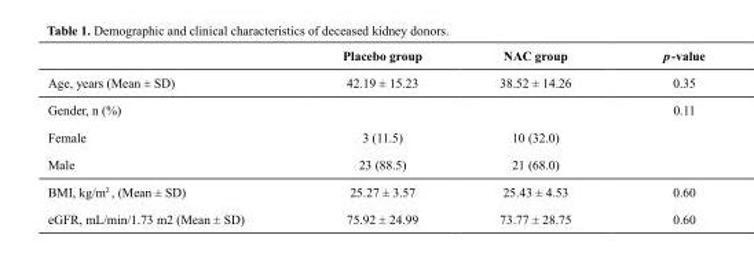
<table><thead><tr><td></td><td>Placebo group</td><td>NAC group</td><td>p-value</td></tr></thead><tbody><tr><td>Age, years (Mean ± SD)</td><td>42.19 ± 15.23</td><td>38.52 ± 14.26</td><td>0.35</td></tr><tr><td>Gender, n (%) Female Male</td><td>3 (11.5) 23 (88.5)</td><td>10 (32.0) 21 (68.0)</td><td>0.11</td></tr><tr><td>BMI, kg/m<sup>2</sup> , (Mean ± SD)</td><td>25.27 ± 3.57</td><td>25.43 ± 4.53</td><td>0.60</td></tr><tr><td>eGFR, mL/min/1.73 m2 (Mean ± SD)</td><td>75.92 ± 24.99</td><td>73.77 ± 28.75</td><td>0.60</td></tr></tbody></table>